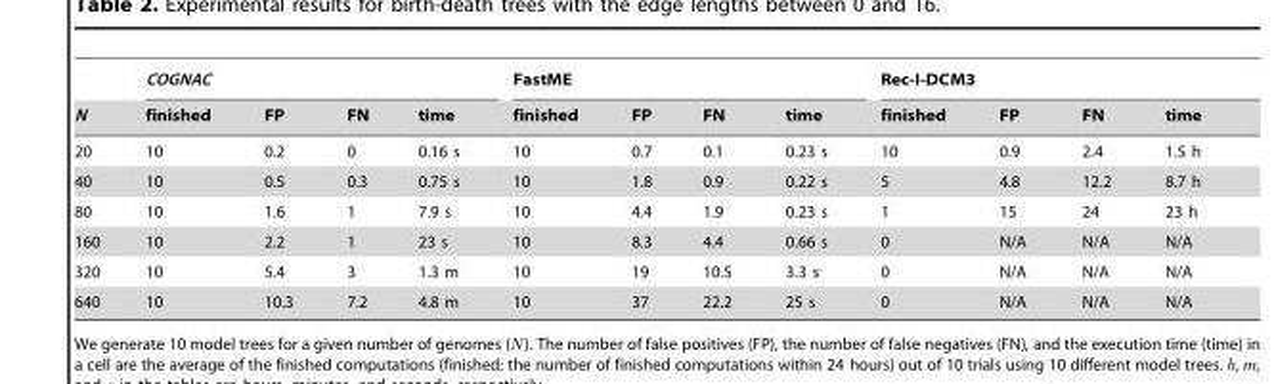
<table><thead><tr><td rowspan="2">N</td><td colspan="4">COGNAC</td><td colspan="4">FastME</td><td colspan="4">Rec-I-DCM3</td></tr><tr><td>finished</td><td>FP</td><td>FN</td><td>time</td><td>finished</td><td>FP</td><td>FN</td><td>time</td><td>finished</td><td>FP</td><td>FN</td><td>time</td></tr></thead><tbody><tr><td>20</td><td>10</td><td>0.2</td><td>0</td><td>0.16 s</td><td>10</td><td>0.7</td><td>0.1</td><td>0.23 s</td><td>10</td><td>0.9</td><td>2.4</td><td>1.5 h</td></tr><tr><td>40</td><td>10</td><td>0.5</td><td>0.3</td><td>0.75 s</td><td>10</td><td>1.8</td><td>0.9</td><td>0.22 s</td><td>5</td><td>4.8</td><td>12.2</td><td>8.7 h</td></tr><tr><td>80</td><td>10</td><td>1.6</td><td>1</td><td>7.9 s</td><td>10</td><td>4.4</td><td>1.9</td><td>0.23 s</td><td>1</td><td>15</td><td>24</td><td>23 h</td></tr><tr><td>160</td><td>10</td><td>2.2</td><td>1</td><td>23 s</td><td>10</td><td>8.3</td><td>4.4</td><td>0.66 s</td><td>0</td><td>N/A</td><td>N/A</td><td>N/A</td></tr><tr><td>320</td><td>10</td><td>5.4</td><td>3</td><td>1.3 m</td><td>10</td><td>19</td><td>10.5</td><td>3.3 s</td><td>0</td><td>N/A</td><td>N/A</td><td>N/A</td></tr><tr><td>640</td><td>10</td><td>10.3</td><td>7.2</td><td>4.8 m</td><td>10</td><td>37</td><td>22.2</td><td>25 s</td><td>0</td><td>N/A</td><td>N/A</td><td>N/A</td></tr></tbody></table>